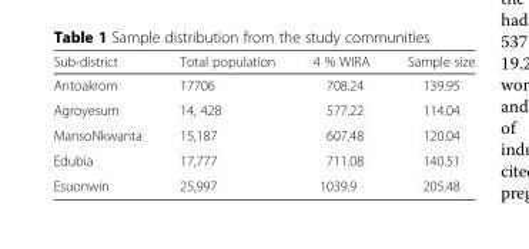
<table><thead><tr><td>Sub-district</td><td>Total population</td><td>4 % WIRA</td><td>Sample size</td></tr></thead><tbody><tr><td>Antoakrom</td><td>17706</td><td>708.24</td><td>139.95</td></tr><tr><td>Agroyesum</td><td>14, 428</td><td>577.22</td><td>114.04</td></tr><tr><td>MansoNkwanta</td><td>15,187</td><td>607.48</td><td>120.04</td></tr><tr><td>Edubia</td><td>17,777</td><td>711.08</td><td>140.51</td></tr><tr><td>Esuonwin</td><td>25,997</td><td>1039.9</td><td>205.48</td></tr></tbody></table>